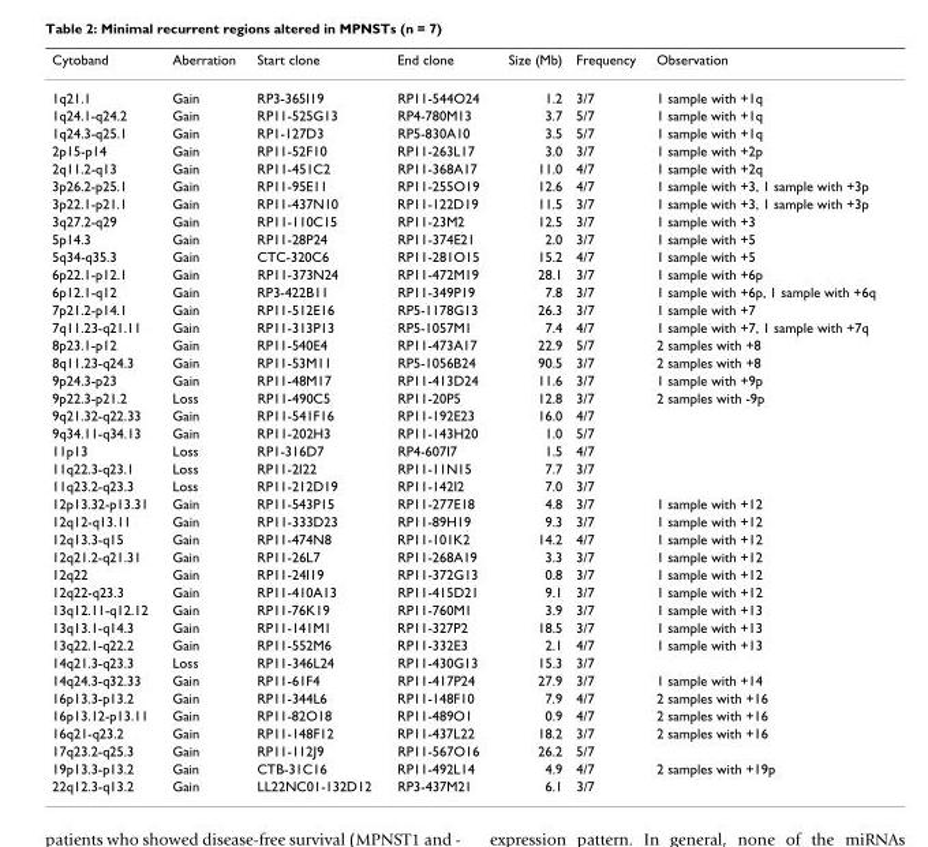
<table><thead><tr><td>Cytoband</td><td>Aberration</td><td>Start clone</td><td>End clone</td><td>Size (Mb)</td><td>Frequency</td><td>Observation</td></tr></thead><tbody><tr><td>1q21.1</td><td>Gain</td><td>RP3-365I19</td><td>RP11-544O24</td><td>1.2</td><td>3/7</td><td>1 sample with +1q</td></tr><tr><td>1q24.1-q24.2</td><td>Gain</td><td>RP11-525G13</td><td>RP4-780M13</td><td>3.7</td><td>5/7</td><td>1 sample with +1q</td></tr><tr><td>1q24.3-q25.1</td><td>Gain</td><td>RP1-127D3</td><td>RP5-830A10</td><td>3.5</td><td>5/7</td><td>1 sample with +1q</td></tr><tr><td>2p15-p14</td><td>Gain</td><td>RP11-52F10</td><td>RP11-263L17</td><td>3.0</td><td>3/7</td><td>1 sample with +2p</td></tr><tr><td>2q11.2-q13</td><td>Gain</td><td>RP11-451C2</td><td>RP11-368A17</td><td>11.0</td><td>4/7</td><td>1 sample with +2q</td></tr><tr><td>3p26.2-p25.1</td><td>Gain</td><td>RP11-95E11</td><td>RP11-255O19</td><td>12.6</td><td>4/7</td><td>1 sample with +3, 1 sample with +3p</td></tr><tr><td>3p22.1-p21.1</td><td>Gain</td><td>RP11-437N10</td><td>RP11-122D19</td><td>11.5</td><td>3/7</td><td>1 sample with +3, 1 sample with +3p</td></tr><tr><td>3q27.2-q29</td><td>Gain</td><td>RP11-110C15</td><td>RP11-23M2</td><td>12.5</td><td>3/7</td><td>1 sample with +3</td></tr><tr><td>5p14.3</td><td>Gain</td><td>RP11-28P24</td><td>RP11-374E21</td><td>2.0</td><td>3/7</td><td>1 sample with +5</td></tr><tr><td>5q34-q35.3</td><td>Gain</td><td>CTC-320C6</td><td>RP11-281O15</td><td>15.2</td><td>4/7</td><td>1 sample with +5</td></tr><tr><td>6p22.1-p12.1</td><td>Gain</td><td>RP11-373N24</td><td>RP11-472M19</td><td>28.1</td><td>3/7</td><td>1 sample with +6p</td></tr><tr><td>6p12.1-q12</td><td>Gain</td><td>RP3-422B11</td><td>RP11-349P19</td><td>7.8</td><td>3/7</td><td>1 sample with +6p, 1 sample with +6q</td></tr><tr><td>7p21.2-p14.1</td><td>Gain</td><td>RP11-512E16</td><td>RP5-1178G13</td><td>26.3</td><td>3/7</td><td>1 sample with +7</td></tr><tr><td>7q11.23-q21.11</td><td>Gain</td><td>RP11-313P13</td><td>RP5-1057M1</td><td>7.4</td><td>4/7</td><td>1 sample with +7, 1 sample with +7q</td></tr><tr><td>8p23.1-p12</td><td>Gain</td><td>RP11-540E4</td><td>RP11-473A17</td><td>22.9</td><td>5/7</td><td>2 samples with +8</td></tr><tr><td>8q11.23-q24.3</td><td>Gain</td><td>RP11-53M11</td><td>RP5-1056B24</td><td>90.5</td><td>3/7</td><td>2 samples with +8</td></tr><tr><td>9p24.3-p23</td><td>Gain</td><td>RP11-48M17</td><td>RP11-413D24</td><td>11.6</td><td>3/7</td><td>1 sample with +9p</td></tr><tr><td>9p22.3-p21.2</td><td>Loss</td><td>RP11-490C5</td><td>RP11-20P5</td><td>12.8</td><td>3/7</td><td>2 samples with -9p</td></tr><tr><td>9q21.32-q22.33</td><td>Gain</td><td>RP11-541F16</td><td>RP11-192E23</td><td>16.0</td><td>4/7</td><td></td></tr><tr><td>9q34.11-q34.13</td><td>Gain</td><td>RP11-202H3</td><td>RP11-143H20</td><td>1.0</td><td>5/7</td><td></td></tr><tr><td>11p13</td><td>Loss</td><td>RP1-316D7</td><td>RP4-607I7</td><td>1.5</td><td>4/7</td><td></td></tr><tr><td>11q22.3-q23.1</td><td>Loss</td><td>RP11-2I22</td><td>RP11-11N15</td><td>7.7</td><td>3/7</td><td></td></tr><tr><td>11q23.2-q23.3</td><td>Loss</td><td>RP11-212D19</td><td>RP11-142I2</td><td>7.0</td><td>3/7</td><td></td></tr><tr><td>12p13.32-p13.31</td><td>Gain</td><td>RP11-543P15</td><td>RP11-277E18</td><td>4.8</td><td>3/7</td><td>1 sample with +12</td></tr><tr><td>12q12-q13.11</td><td>Gain</td><td>RP11-333D23</td><td>RP11-89H19</td><td>9.3</td><td>3/7</td><td>1 sample with +12</td></tr><tr><td>12q13.3-q15</td><td>Gain</td><td>RP11-474N8</td><td>RP11-101K2</td><td>14.2</td><td>4/7</td><td>1 sample with +12</td></tr><tr><td>12q21.2-q21.31</td><td>Gain</td><td>RP11-26L7</td><td>RP11-268A19</td><td>3.3</td><td>3/7</td><td>1 sample with +12</td></tr><tr><td>12q22</td><td>Gain</td><td>RP11-24I19</td><td>RP11-372G13</td><td>0.8</td><td>3/7</td><td>1 sample with +12</td></tr><tr><td>12q22-q23.3</td><td>Gain</td><td>RP11-410A13</td><td>RP11-415D21</td><td>9.1</td><td>3/7</td><td>1 sample with +12</td></tr><tr><td>13q12.11-q12.12</td><td>Gain</td><td>RP11-76K19</td><td>RP11-760M1</td><td>3.9</td><td>3/7</td><td>1 sample with +13</td></tr><tr><td>13q13.1-q14.3</td><td>Gain</td><td>RP11-141M1</td><td>RP11-327P2</td><td>18.5</td><td>3/7</td><td>1 sample with +13</td></tr><tr><td>13q22.1-q22.2</td><td>Gain</td><td>RP11-552M6</td><td>RP11-332E3</td><td>2.1</td><td>4/7</td><td>1 sample with +13</td></tr><tr><td>14q21.3-q23.3</td><td>Loss</td><td>RP11-346L24</td><td>RP11-430G13</td><td>15.3</td><td>3/7</td><td></td></tr><tr><td>14q24.3-q32.33</td><td>Gain</td><td>RP11-61F4</td><td>RP11-417P24</td><td>27.9</td><td>3/7</td><td>1 sample with +14</td></tr><tr><td>16p13.3-p13.2</td><td>Gain</td><td>RP11-344L6</td><td>RP11-148F10</td><td>7.9</td><td>4/7</td><td>2 samples with +16</td></tr><tr><td>16p13.12-p13.11</td><td>Gain</td><td>RP11-82O18</td><td>RP11-489O1</td><td>0.9</td><td>4/7</td><td>2 samples with +16</td></tr><tr><td>16q21-q23.2</td><td>Gain</td><td>RP11-148F12</td><td>RP11-437L22</td><td>18.2</td><td>3/7</td><td>2 samples with +16</td></tr><tr><td>17q23.2-q25.3</td><td>Gain</td><td>RP11-112J9</td><td>RP11-567O16</td><td>26.2</td><td>5/7</td><td></td></tr><tr><td>19p13.3-p13.2</td><td>Gain</td><td>CTB-31C16</td><td>RP11-492L14</td><td>4.9</td><td>4/7</td><td>2 samples with +19p</td></tr><tr><td>22q12.3-q13.2</td><td>Gain</td><td>LL22NC01-132D12</td><td>RP3-437M21</td><td>6.1</td><td>3/7</td><td></td></tr></tbody></table>